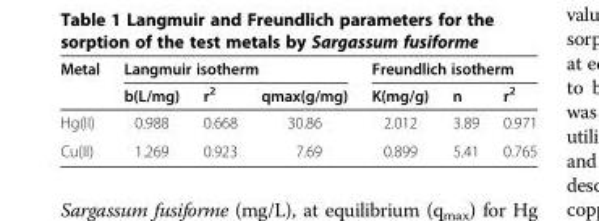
<table><thead><tr><td rowspan="2">Metal</td><td colspan="3">Langmuir isotherm</td><td colspan="3">Freundlich isotherm</td></tr><tr><td>b(L/mg)</td><td>r<sup>2</sup></td><td>qmax(g/mg)</td><td>K(mg/g)</td><td>n</td><td>r<sup>2</sup></td></tr></thead><tbody><tr><td>Hg(II)</td><td>0.988</td><td>0.668</td><td>30.86</td><td>2.012</td><td>3.89</td><td>0.971</td></tr><tr><td>Cu(II)</td><td>1.269</td><td>0.923</td><td>7.69</td><td>0.899</td><td>5.41</td><td>0.765</td></tr></tbody></table>